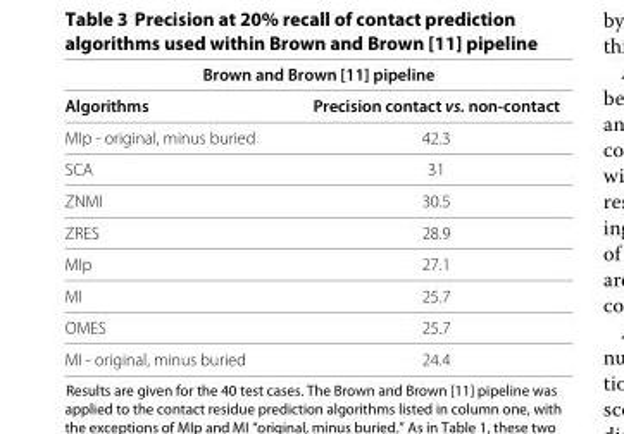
<table><thead><tr><td colspan="2">Brown and Brown [11] pipeline</td></tr><tr><td>Algorithms</td><td>Precision contact vs. non-contact</td></tr></thead><tbody><tr><td>MIp - original, minus buried</td><td>42.3</td></tr><tr><td>SCA</td><td>31</td></tr><tr><td>ZNMI</td><td>30.5</td></tr><tr><td>ZRES</td><td>28.9</td></tr><tr><td>MIp</td><td>27.1</td></tr><tr><td>MI</td><td>25.7</td></tr><tr><td>OMES</td><td>25.7</td></tr><tr><td>MI - original, minus buried</td><td>24.4</td></tr></tbody></table>